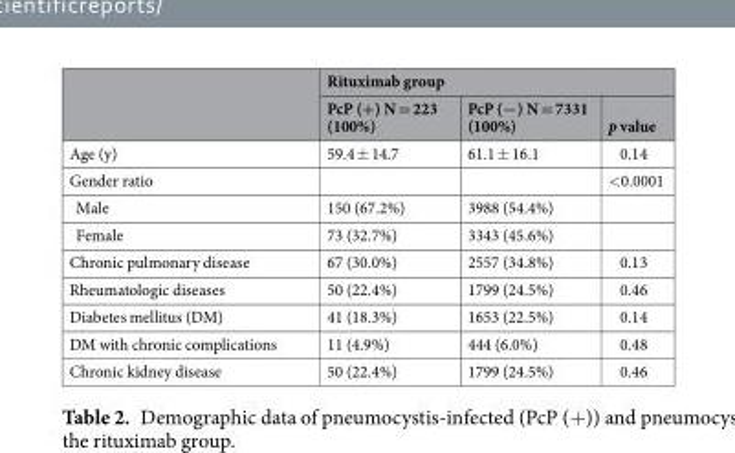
<table><thead><tr><td rowspan="2"></td><td colspan="3">Rituximab group</td></tr><tr><td>PcP (+) N = 223 (100%)</td><td>PcP (−) N = 7331 (100%)</td><td>p value</td></tr></thead><tbody><tr><td>Age (y)</td><td>59.4 ± 14.7</td><td>61.1 ± 16.1</td><td>0.14</td></tr><tr><td>Gender ratio</td><td></td><td></td><td>&lt;0.0001</td></tr><tr><td>Male</td><td>150 (67.2%)</td><td>3988 (54.4%)</td><td></td></tr><tr><td>Female</td><td>73 (32.7%)</td><td>3343 (45.6%)</td><td></td></tr><tr><td>Chronic pulmonary disease</td><td>67 (30.0%)</td><td>2557 (34.8%)</td><td>0.13</td></tr><tr><td>Rheumatologic diseases</td><td>50 (22.4%)</td><td>1799 (24.5%)</td><td>0.46</td></tr><tr><td>Diabetes mellitus (DM)</td><td>41 (18.3%)</td><td>1653 (22.5%)</td><td>0.14</td></tr><tr><td>DM with chronic complications</td><td>11 (4.9%)</td><td>444 (6.0%)</td><td>0.48</td></tr><tr><td>Chronic kidney disease</td><td>50 (22.4%)</td><td>1799 (24.5%)</td><td>0.46</td></tr></tbody></table>